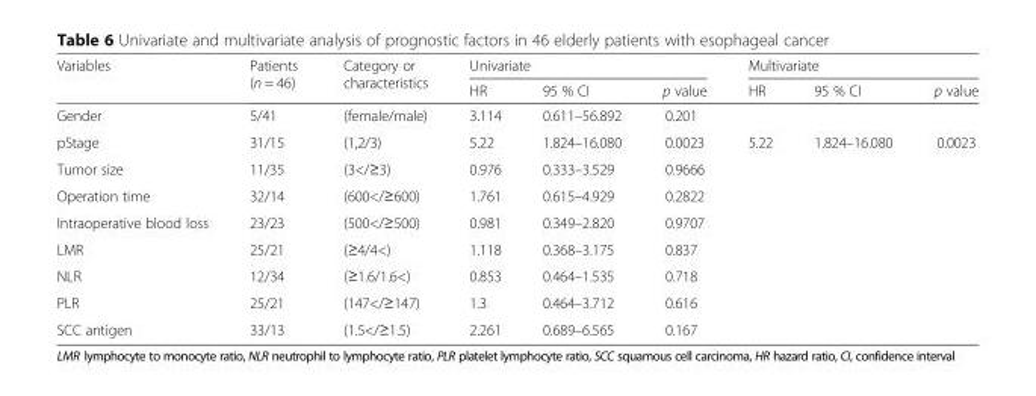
<table><thead><tr><td rowspan="2">Variables</td><td rowspan="2">Patients (n = 46)</td><td rowspan="2">Category or characteristics</td><td colspan="3">Univariate</td><td colspan="3">Multivariate</td></tr><tr><td>HR</td><td>95 % CI</td><td>p value</td><td>HR</td><td>95 % CI</td><td>p value</td></tr></thead><tbody><tr><td>Gender</td><td>5/41</td><td>(female/male)</td><td>3.114</td><td>0.611–56.892</td><td>0.201</td><td></td><td></td><td></td></tr><tr><td>pStage</td><td>31/15</td><td>(1,2/3)</td><td>5.22</td><td>1.824–16.080</td><td>0.0023</td><td>5.22</td><td>1.824–16.080</td><td>0.0023</td></tr><tr><td>Tumor size</td><td>11/35</td><td>(3&lt;/≥3)</td><td>0.976</td><td>0.333–3.529</td><td>0.9666</td><td></td><td></td><td></td></tr><tr><td>Operation time</td><td>32/14</td><td>(600&lt;/≥600)</td><td>1.761</td><td>0.615–4.929</td><td>0.2822</td><td></td><td></td><td></td></tr><tr><td>Intraoperative blood loss</td><td>23/23</td><td>(500&lt;/≥500)</td><td>0.981</td><td>0.349–2.820</td><td>0.9707</td><td></td><td></td><td></td></tr><tr><td>LMR</td><td>25/21</td><td>(≥4/4&lt;)</td><td>1.118</td><td>0.368–3.175</td><td>0.837</td><td></td><td></td><td></td></tr><tr><td>NLR</td><td>12/34</td><td>(≥1.6/1.6&lt;)</td><td>0.853</td><td>0.464–1.535</td><td>0.718</td><td></td><td></td><td></td></tr><tr><td>PLR</td><td>25/21</td><td>(147&lt;/≥147)</td><td>1.3</td><td>0.464–3.712</td><td>0.616</td><td></td><td></td><td></td></tr><tr><td>SCC antigen</td><td>33/13</td><td>(1.5&lt;/≥1.5)</td><td>2.261</td><td>0.689–6.565</td><td>0.167</td><td></td><td></td><td></td></tr></tbody></table>